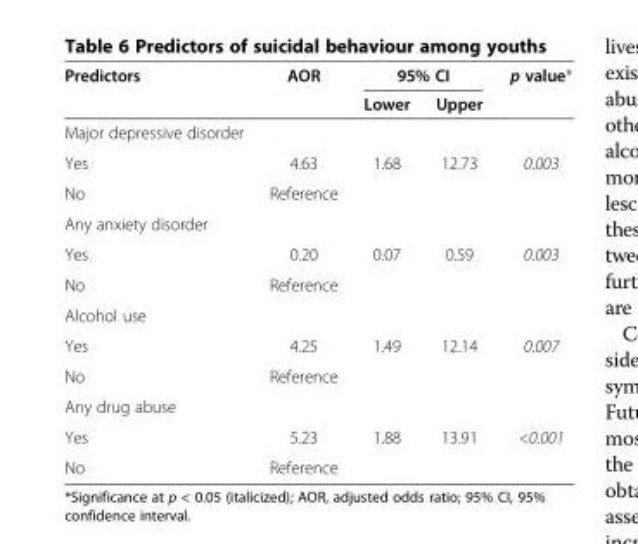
<table><thead><tr><td rowspan="2">Predictors</td><td rowspan="2">AOR</td><td colspan="2">95% CI</td><td rowspan="2">p value*</td></tr><tr><td>Lower</td><td>Upper</td></tr></thead><tbody><tr><td colspan="5">Major depressive disorder</td></tr><tr><td>Yes</td><td>4.63</td><td>1.68</td><td>12.73</td><td>0.003</td></tr><tr><td>No</td><td>Reference</td><td></td><td></td><td></td></tr><tr><td colspan="5">Any anxiety disorder</td></tr><tr><td>Yes</td><td>0.20</td><td>0.07</td><td>0.59</td><td>0.003</td></tr><tr><td>No</td><td>Reference</td><td></td><td></td><td></td></tr><tr><td colspan="5">Alcohol use</td></tr><tr><td>Yes</td><td>4.25</td><td>1.49</td><td>12.14</td><td>0.007</td></tr><tr><td>No</td><td>Reference</td><td></td><td></td><td></td></tr><tr><td colspan="5">Any drug abuse</td></tr><tr><td>Yes</td><td>5.23</td><td>1.88</td><td>13.91</td><td>&lt;0.001</td></tr><tr><td>No</td><td>Reference</td><td></td><td></td><td></td></tr></tbody></table>